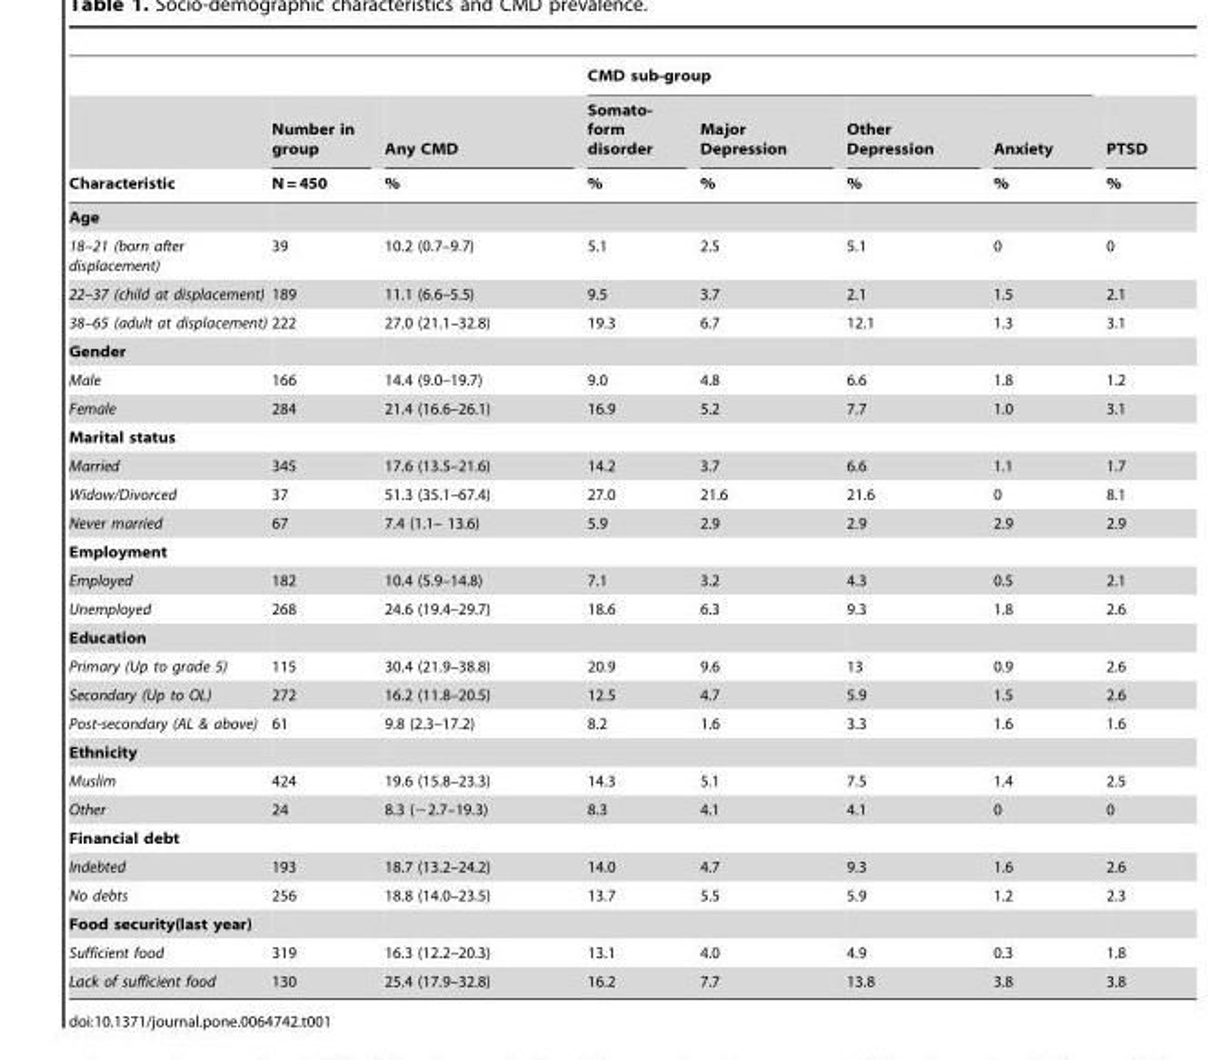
<table><thead><tr><td rowspan="3">Characteristic</td><td rowspan="3">Number in group N = 450</td><td rowspan="3">Any CMD %</td><td colspan="4">CMD sub-group</td><td rowspan="3">PTSD %</td></tr><tr><td rowspan="2">Somato- form disorder %</td><td rowspan="2">Major Depression %</td><td rowspan="2">Other Depression %</td><td rowspan="2">Anxiety %</td></tr><tr></tr></thead><tbody><tr><td colspan="8">Age</td></tr><tr><td>18–21 (born after displacement)</td><td>39</td><td>10.2 (0.7–9.7)</td><td>5.1</td><td>2.5</td><td>5.1</td><td>0</td><td>0</td></tr><tr><td>22–37 (child at displacement)</td><td>189</td><td>11.1 (6.6–5.5)</td><td>9.5</td><td>3.7</td><td>2.1</td><td>1.5</td><td>2.1</td></tr><tr><td>38–65 (adult at displacement)</td><td>222</td><td>27.0 (21.1–32.8)</td><td>19.3</td><td>6.7</td><td>12.1</td><td>1.3</td><td>3.1</td></tr><tr><td colspan="8">Gender</td></tr><tr><td>Male</td><td>166</td><td>14.4 (9.0–19.7)</td><td>9.0</td><td>4.8</td><td>6.6</td><td>1.8</td><td>1.2</td></tr><tr><td>Female</td><td>284</td><td>21.4 (16.6–26.1)</td><td>16.9</td><td>5.2</td><td>7.7</td><td>1.0</td><td>3.1</td></tr><tr><td colspan="8">Marital status</td></tr><tr><td>Married</td><td>345</td><td>17.6 (13.5–21.6)</td><td>14.2</td><td>3.7</td><td>6.6</td><td>1.1</td><td>1.7</td></tr><tr><td>Widow/Divorced</td><td>37</td><td>51.3 (35.1–67.4)</td><td>27.0</td><td>21.6</td><td>21.6</td><td>0</td><td>8.1</td></tr><tr><td>Never married</td><td>67</td><td>7.4 (1.1– 13.6)</td><td>5.9</td><td>2.9</td><td>2.9</td><td>2.9</td><td>2.9</td></tr><tr><td colspan="8">Employment</td></tr><tr><td>Employed</td><td>182</td><td>10.4 (5.9–14.8)</td><td>7.1</td><td>3.2</td><td>4.3</td><td>0.5</td><td>2.1</td></tr><tr><td>Unemployed</td><td>268</td><td>24.6 (19.4–29.7)</td><td>18.6</td><td>6.3</td><td>9.3</td><td>1.8</td><td>2.6</td></tr><tr><td colspan="8">Education</td></tr><tr><td>Primary (Up to grade 5)</td><td>115</td><td>30.4 (21.9–38.8)</td><td>20.9</td><td>9.6</td><td>13</td><td>0.9</td><td>2.6</td></tr><tr><td>Secondary (Up to OL)</td><td>272</td><td>16.2 (11.8–20.5)</td><td>12.5</td><td>4.7</td><td>5.9</td><td>1.5</td><td>2.6</td></tr><tr><td>Post-secondary (AL &amp; above)</td><td>61</td><td>9.8 (2.3–17.2)</td><td>8.2</td><td>1.6</td><td>3.3</td><td>1.6</td><td>1.6</td></tr><tr><td colspan="8">Ethnicity</td></tr><tr><td>Muslim</td><td>424</td><td>19.6 (15.8–23.3)</td><td>14.3</td><td>5.1</td><td>7.5</td><td>1.4</td><td>2.5</td></tr><tr><td>Other</td><td>24</td><td>8.3 (−2.7–19.3)</td><td>8.3</td><td>4.1</td><td>4.1</td><td>0</td><td>0</td></tr><tr><td colspan="8">Financial debt</td></tr><tr><td>Indebted</td><td>193</td><td>18.7 (13.2–24.2)</td><td>14.0</td><td>4.7</td><td>9.3</td><td>1.6</td><td>2.6</td></tr><tr><td>No debts</td><td>256</td><td>18.8 (14.0–23.5)</td><td>13.7</td><td>5.5</td><td>5.9</td><td>1.2</td><td>2.3</td></tr><tr><td colspan="8">Food security(last year)</td></tr><tr><td>Sufficient food</td><td>319</td><td>16.3 (12.2–20.3)</td><td>13.1</td><td>4.0</td><td>4.9</td><td>0.3</td><td>1.8</td></tr><tr><td>Lack of sufficient food</td><td>130</td><td>25.4 (17.9–32.8)</td><td>16.2</td><td>7.7</td><td>13.8</td><td>3.8</td><td>3.8</td></tr></tbody></table>